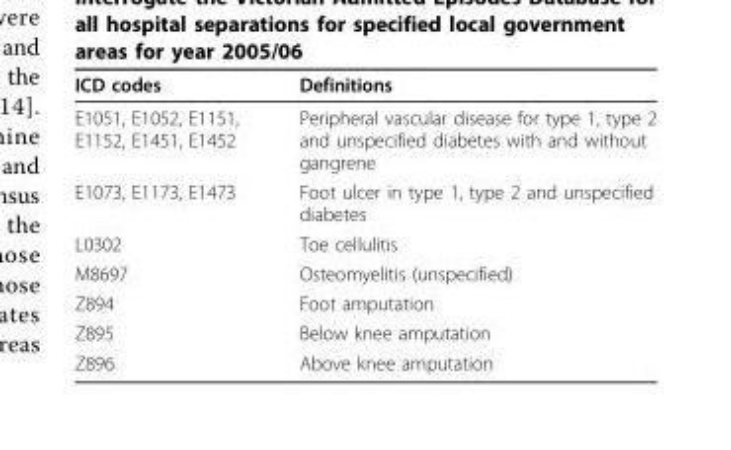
<table><thead><tr><td>ICD codes</td><td>Definitions</td></tr></thead><tbody><tr><td>E1051, E1052, E1151, E1152, E1451, E1452</td><td>Peripheral vascular disease for type 1, type 2 and unspecified diabetes with and without gangrene</td></tr><tr><td>E1073, E1173, E1473</td><td>Foot ulcer in type 1, type 2 and unspecified diabetes</td></tr><tr><td>L0302</td><td>Toe cellulitis</td></tr><tr><td>M8697</td><td>Osteomyelitis (unspecified)</td></tr><tr><td>Z894</td><td>Foot amputation</td></tr><tr><td>Z895</td><td>Below knee amputation</td></tr><tr><td>Z896</td><td>Above knee amputation</td></tr></tbody></table>